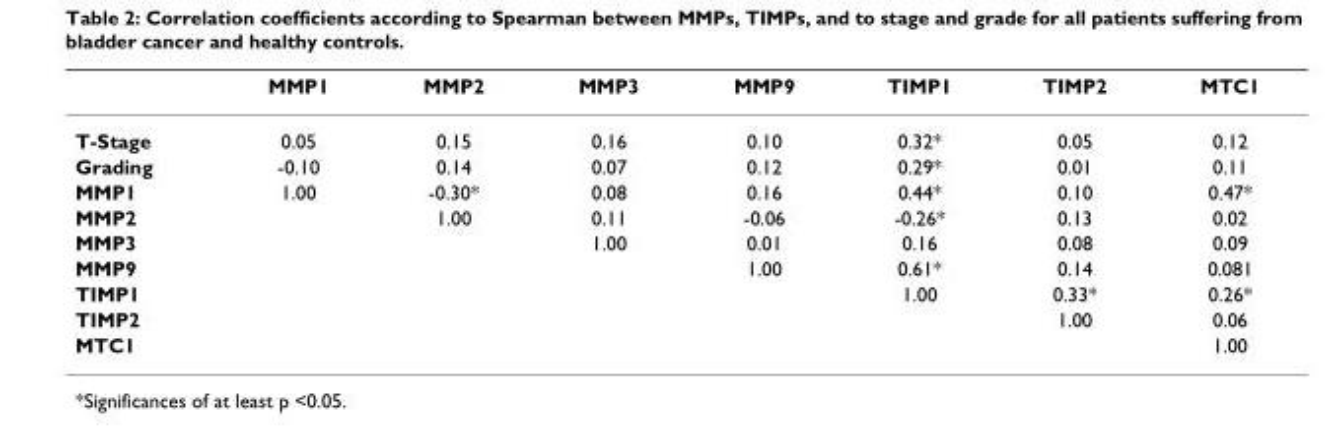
<table><thead><tr><td></td><td>MMP1</td><td>MMP2</td><td>MMP3</td><td>MMP9</td><td>TIMP1</td><td>TIMP2</td><td>MTC1</td></tr></thead><tbody><tr><td>T-Stage</td><td>0.05</td><td>0.15</td><td>0.16</td><td>0.10</td><td>0.32*</td><td>0.05</td><td>0.12</td></tr><tr><td>Grading</td><td>-0.10</td><td>0.14</td><td>0.07</td><td>0.12</td><td>0.29*</td><td>0.01</td><td>0.11</td></tr><tr><td>MMP1</td><td>1.00</td><td>-0.30*</td><td>0.08</td><td>0.16</td><td>0.44*</td><td>0.10</td><td>0.47*</td></tr><tr><td>MMP2</td><td></td><td>1.00</td><td>0.11</td><td>-0.06</td><td>-0.26*</td><td>0.13</td><td>0.02</td></tr><tr><td>MMP3</td><td></td><td></td><td>1.00</td><td>0.01</td><td>0.16</td><td>0.08</td><td>0.09</td></tr><tr><td>MMP9</td><td></td><td></td><td></td><td>1.00</td><td>0.61*</td><td>0.14</td><td>0.081</td></tr><tr><td>TIMP1</td><td></td><td></td><td></td><td></td><td>1.00</td><td>0.33*</td><td>0.26*</td></tr><tr><td>TIMP2</td><td></td><td></td><td></td><td></td><td></td><td>1.00</td><td>0.06</td></tr><tr><td>MTC1</td><td></td><td></td><td></td><td></td><td></td><td></td><td>1.00</td></tr></tbody></table>